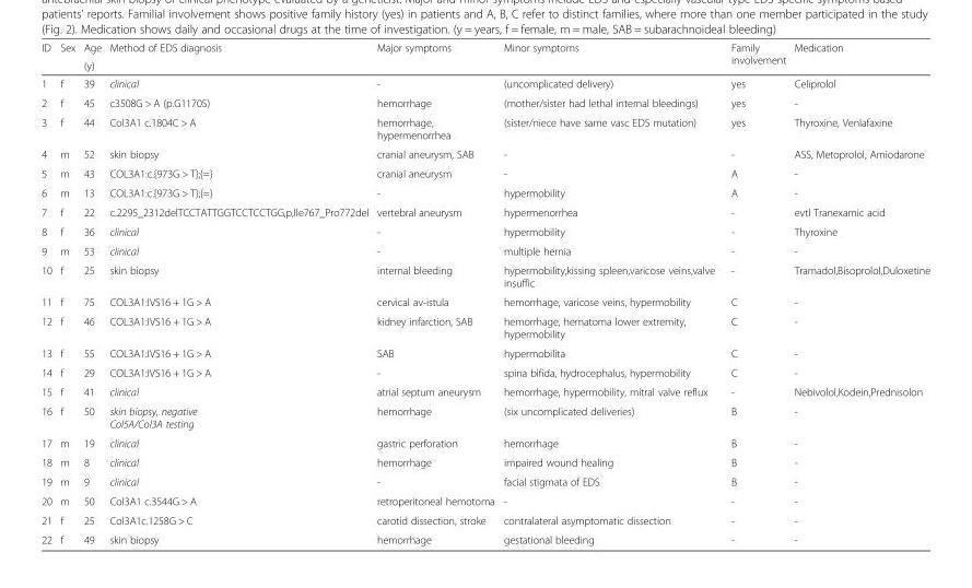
<table><thead><tr><td rowspan="2">ID</td><td rowspan="2">Sex</td><td rowspan="2">Age (y)</td><td rowspan="2">Method of EDS diagnosis</td><td rowspan="2">Major symptoms</td><td rowspan="2">Minor symptoms</td><td rowspan="2">Family involvement</td><td rowspan="2">Medication</td></tr><tr></tr></thead><tbody><tr><td>1</td><td>f</td><td>39</td><td>clinical</td><td>-</td><td>(uncomplicated delivery)</td><td>yes</td><td>Celiprolol</td></tr><tr><td>2</td><td>f</td><td>45</td><td>c3508G &gt; A (p.G1170S)</td><td>hemorrhage</td><td>(mother/sister had lethal internal bleedings)</td><td>yes</td><td>-</td></tr><tr><td>3</td><td>f</td><td>44</td><td>Col3A1 c.1804C &gt; A</td><td>hemorrhage, hypermenorrhea</td><td>(sister/niece have same vasc EDS mutation)</td><td>yes</td><td>Thyroxine, Venlafaxine</td></tr><tr><td>4</td><td>m</td><td>52</td><td>skin biopsy</td><td>cranial aneurysm, SAB</td><td>-</td><td>-</td><td>ASS, Metoprolol, Amiodarone</td></tr><tr><td>5</td><td>m</td><td>43</td><td>COL3A1:c.{973G &gt; T};{=}</td><td>cranial aneurysm</td><td>-</td><td>A</td><td>-</td></tr><tr><td>6</td><td>m</td><td>13</td><td>COL3A1:c.{973G &gt; T};{=}</td><td>-</td><td>hypermobility</td><td>A</td><td>-</td></tr><tr><td>7</td><td>f</td><td>22</td><td>c.2295_2312delTCCTATTGGTCCTCCTGG,p,lle767_Pro772del</td><td>vertebral aneurysm</td><td>hypermenorrhea</td><td>-</td><td>evtl Tranexamic acid</td></tr><tr><td>8</td><td>f</td><td>36</td><td>clinical</td><td>-</td><td>hypermobility</td><td>-</td><td>Thyroxine</td></tr><tr><td>9</td><td>m</td><td>53</td><td>clinical</td><td>-</td><td>multiple hernia</td><td>-</td><td>-</td></tr><tr><td>10</td><td>f</td><td>25</td><td>skin biopsy</td><td>internal bleeding</td><td>hypermobility,kissing spleen,varicose veins,valve insuffic</td><td>-</td><td>Tramadol,Bisoprolol,Duloxetine</td></tr><tr><td>11</td><td>f</td><td>75</td><td>COL3A1:IVS16 + 1G &gt; A</td><td>cervical av-istula</td><td>hemorrhage, varicose veins, hypermobility</td><td>C</td><td>-</td></tr><tr><td>12</td><td>f</td><td>46</td><td>COL3A1:IVS16 + 1G &gt; A</td><td>kidney infarction, SAB</td><td>hemorrhage, hematoma lower extremity, hypermobility</td><td>C</td><td>-</td></tr><tr><td>13</td><td>f</td><td>55</td><td>COL3A1:IVS16 + 1G &gt; A</td><td>SAB</td><td>hypermobilita</td><td>C</td><td>-</td></tr><tr><td>14</td><td>f</td><td>29</td><td>COL3A1:IVS16 + 1G &gt; A</td><td>-</td><td>spina bifida, hydrocephalus, hypermobility</td><td>C</td><td>-</td></tr><tr><td>15</td><td>f</td><td>41</td><td>clinical</td><td>atrial septum aneurysm</td><td>hemorrhage, hypermobility, mitral valve reflux</td><td>-</td><td>Nebivolol,Kodein,Prednisolon</td></tr><tr><td>16</td><td>f</td><td>50</td><td>skin biopsy, negative Col5A/Col3A testing</td><td>hemorrhage</td><td>(six uncomplicated deliveries)</td><td>B</td><td>-</td></tr><tr><td>17</td><td>m</td><td>19</td><td>clinical</td><td>gastric perforation</td><td>hemorrhage</td><td>B</td><td>-</td></tr><tr><td>18</td><td>m</td><td>8</td><td>clinical</td><td>hemorrhage</td><td>impaired wound healing</td><td>B</td><td>-</td></tr><tr><td>19</td><td>m</td><td>9</td><td>clinical</td><td>-</td><td>facial stigmata of EDS</td><td>B</td><td>-</td></tr><tr><td>20</td><td>m</td><td>50</td><td>Col3A1 c.3544G &gt; A</td><td>retroperitoneal hemotoma</td><td>-</td><td>-</td><td>-</td></tr><tr><td>21</td><td>f</td><td>25</td><td>Col3A1c.1258G &gt; C</td><td>carotid dissection, stroke</td><td>contralateral asymptomatic dissection</td><td>-</td><td>-</td></tr><tr><td>22</td><td>f</td><td>49</td><td>skin biopsy</td><td>hemorrhage</td><td>gestational bleeding</td><td>-</td><td>-</td></tr></tbody></table>